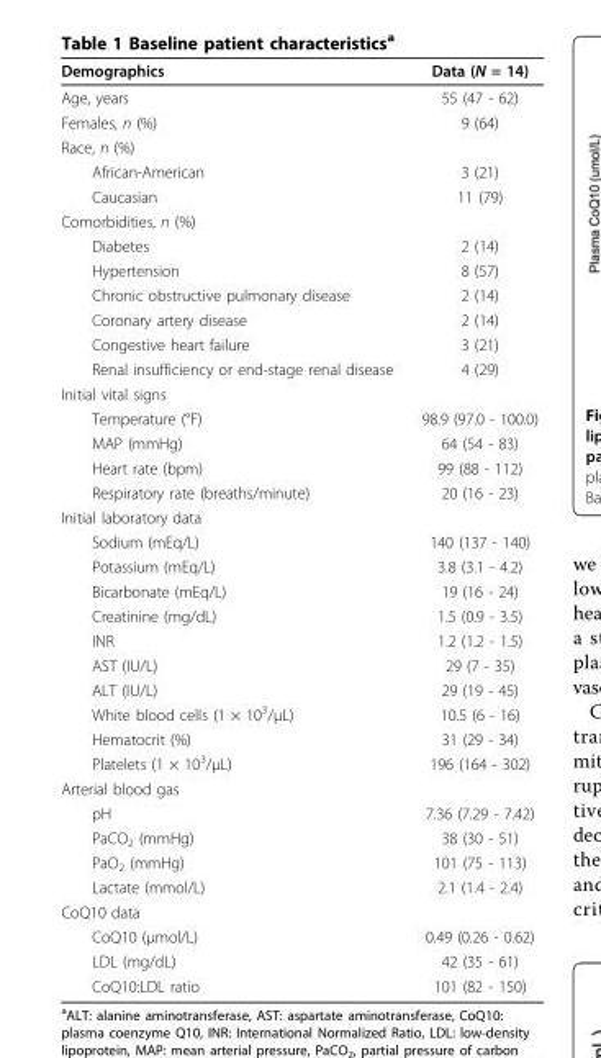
<table><thead><tr><td>Demographics</td><td>Data (N = 14)</td></tr></thead><tbody><tr><td>Age, years</td><td>55 (47 - 62)</td></tr><tr><td>Females, n (%)</td><td>9 (64)</td></tr><tr><td colspan="2">Race, n (%)</td></tr><tr><td>African-American</td><td>3 (21)</td></tr><tr><td>Caucasian</td><td>11 (79)</td></tr><tr><td colspan="2">Comorbidities, n (%)</td></tr><tr><td>Diabetes</td><td>2 (14)</td></tr><tr><td>Hypertension</td><td>8 (57)</td></tr><tr><td>Chronic obstructive pulmonary disease</td><td>2 (14)</td></tr><tr><td>Coronary artery disease</td><td>2 (14)</td></tr><tr><td>Congestive heart failure</td><td>3 (21)</td></tr><tr><td>Renal insufficiency or end-stage renal disease</td><td>4 (29)</td></tr><tr><td colspan="2">Initial vital signs</td></tr><tr><td>Temperature (°F)</td><td>98.9 (97.0 - 100.0)</td></tr><tr><td>MAP (mmHg)</td><td>64 (54 - 83)</td></tr><tr><td>Heart rate (bpm)</td><td>99 (88 - 112)</td></tr><tr><td>Respiratory rate (breaths/minute)</td><td>20 (16 - 23)</td></tr><tr><td colspan="2">Initial laboratory data</td></tr><tr><td>Sodium (mEq/L)</td><td>140 (137 - 140)</td></tr><tr><td>Potassium (mEq/L)</td><td>3.8 (3.1 - 4.2)</td></tr><tr><td>Bicarbonate (mEq/L)</td><td>19 (16 - 24)</td></tr><tr><td>Creatinine (mg/dL)</td><td>1.5 (0.9 - 3.5)</td></tr><tr><td>INR</td><td>1.2 (1.2 - 1.5)</td></tr><tr><td>AST (IU/L)</td><td>29 (7 - 35)</td></tr><tr><td>ALT (IU/L)</td><td>29 (19 - 45)</td></tr><tr><td>White blood cells (1 × 10<sup>3</sup>/μL)</td><td>10.5 (6 - 16)</td></tr><tr><td>Hematocrit (%)</td><td>31 (29 - 34)</td></tr><tr><td>Platelets (1 × 10<sup>3</sup>/μL)</td><td>196 (164 - 302)</td></tr><tr><td colspan="2">Arterial blood gas</td></tr><tr><td>pH</td><td>7.36 (7.29 - 7.42)</td></tr><tr><td>PaCO<sub>2</sub> (mmHg)</td><td>38 (30 - 51)</td></tr><tr><td>PaO<sub>2</sub> (mmHg)</td><td>101 (75 - 113)</td></tr><tr><td>Lactate (mmol/L)</td><td>2.1 (1.4 - 2.4)</td></tr><tr><td colspan="2">CoQ10 data</td></tr><tr><td>CoQ10 (μmol/L)</td><td>0.49 (0.26 - 0.62)</td></tr><tr><td>LDL (mg/dL)</td><td>42 (35 - 61)</td></tr><tr><td>CoQ10:LDL ratio</td><td>101 (82 - 150)</td></tr></tbody></table>